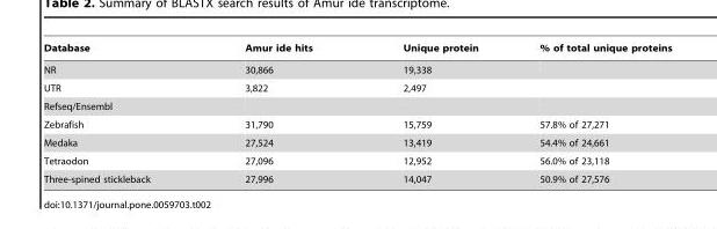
<table><thead><tr><td>Database</td><td>Amur ide hits</td><td>Unique protein</td><td>% of total unique proteins</td></tr></thead><tbody><tr><td>NR</td><td>30,866</td><td>19,338</td><td></td></tr><tr><td>UTR</td><td>3,822</td><td>2,497</td><td></td></tr><tr><td colspan="4">Refseq/Ensembl</td></tr><tr><td>Zebrafish</td><td>31,790</td><td>15,759</td><td>57.8% of 27,271</td></tr><tr><td>Medaka</td><td>27,524</td><td>13,419</td><td>54.4% of 24,661</td></tr><tr><td>Tetraodon</td><td>27,096</td><td>12,952</td><td>56.0% of 23,118</td></tr><tr><td>Three-spined stickleback</td><td>27,996</td><td>14,047</td><td>50.9% of 27,576</td></tr></tbody></table>